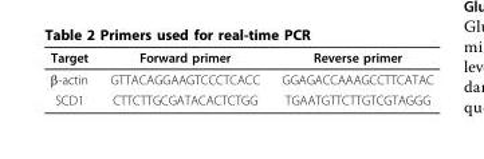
<table><thead><tr><td>Target</td><td>Forward primer</td><td>Reverse primer</td></tr></thead><tbody><tr><td>β-actin</td><td>GTTACAGGAAGTCCCTCACC</td><td>GGAGACCAAAGCCTTCATAC</td></tr><tr><td>SCD1</td><td>CTTCTTGCGATACACTCTGG</td><td>TGAATGTTCTTGTCGTAGGG</td></tr></tbody></table>